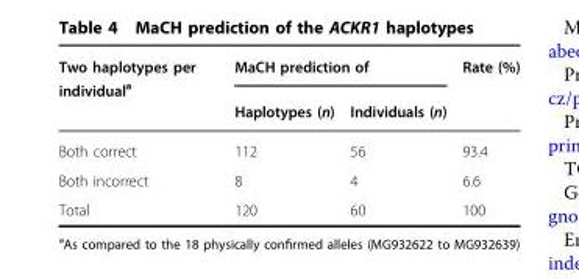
<table><thead><tr><td rowspan="2">Two haplotypes per individual<sup>a</sup></td><td colspan="2">MaCH prediction of</td><td rowspan="2">Rate (%)</td></tr><tr><td>Haplotypes (n)</td><td>Individuals (n)</td></tr></thead><tbody><tr><td>Both correct</td><td>112</td><td>56</td><td>93.4</td></tr><tr><td>Both incorrect</td><td>8</td><td>4</td><td>6.6</td></tr><tr><td>Total</td><td>120</td><td>60</td><td>100</td></tr></tbody></table>